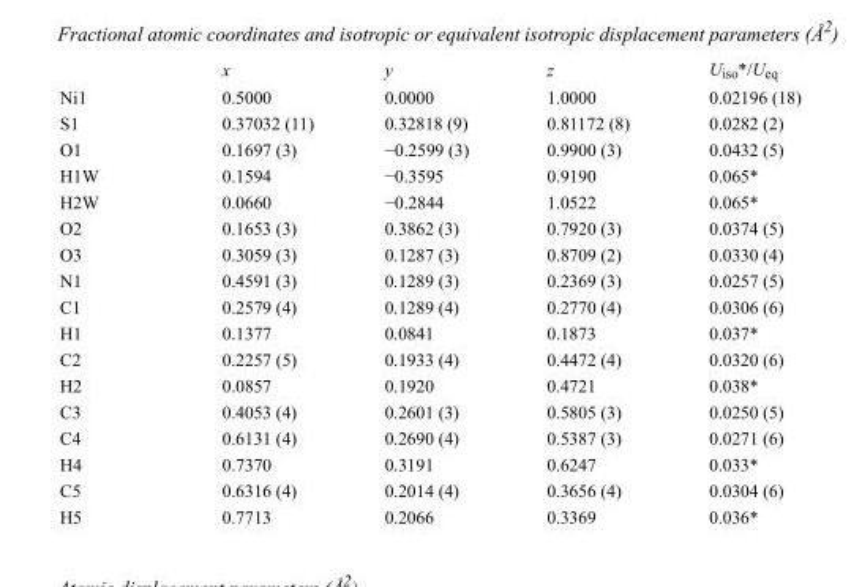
<table><thead><tr><td></td><td>x</td><td>y</td><td>z</td><td>U<sub>iso</sub>*/U<sub>eq</sub></td></tr></thead><tbody><tr><td>Ni1</td><td>0.5000</td><td>0.0000</td><td>1.0000</td><td>0.02196 (18)</td></tr><tr><td>S1</td><td>0.37032 (11)</td><td>0.32818 (9)</td><td>0.81172 (8)</td><td>0.0282 (2)</td></tr><tr><td>O1</td><td>0.1697 (3)</td><td>−0.2599 (3)</td><td>0.9900 (3)</td><td>0.0432 (5)</td></tr><tr><td>H1W</td><td>0.1594</td><td>−0.3595</td><td>0.9190</td><td>0.065*</td></tr><tr><td>H2W</td><td>0.0660</td><td>−0.2844</td><td>1.0522</td><td>0.065*</td></tr><tr><td>O2</td><td>0.1653 (3)</td><td>0.3862 (3)</td><td>0.7920 (3)</td><td>0.0374 (5)</td></tr><tr><td>O3</td><td>0.3059 (3)</td><td>0.1287 (3)</td><td>0.8709 (2)</td><td>0.0330 (4)</td></tr><tr><td>N1</td><td>0.4591 (3)</td><td>0.1289 (3)</td><td>0.2369 (3)</td><td>0.0257 (5)</td></tr><tr><td>C1</td><td>0.2579 (4)</td><td>0.1289 (4)</td><td>0.2770 (4)</td><td>0.0306 (6)</td></tr><tr><td>H1</td><td>0.1377</td><td>0.0841</td><td>0.1873</td><td>0.037*</td></tr><tr><td>C2</td><td>0.2257 (5)</td><td>0.1933 (4)</td><td>0.4472 (4)</td><td>0.0320 (6)</td></tr><tr><td>H2</td><td>0.0857</td><td>0.1920</td><td>0.4721</td><td>0.038*</td></tr><tr><td>C3</td><td>0.4053 (4)</td><td>0.2601 (3)</td><td>0.5805 (3)</td><td>0.0250 (5)</td></tr><tr><td>C4</td><td>0.6131 (4)</td><td>0.2690 (4)</td><td>0.5387 (3)</td><td>0.0271 (6)</td></tr><tr><td>H4</td><td>0.7370</td><td>0.3191</td><td>0.6247</td><td>0.033*</td></tr><tr><td>C5</td><td>0.6316 (4)</td><td>0.2014 (4)</td><td>0.3656 (4)</td><td>0.0304 (6)</td></tr><tr><td>H5</td><td>0.7713</td><td>0.2066</td><td>0.3369</td><td>0.036*</td></tr></tbody></table>